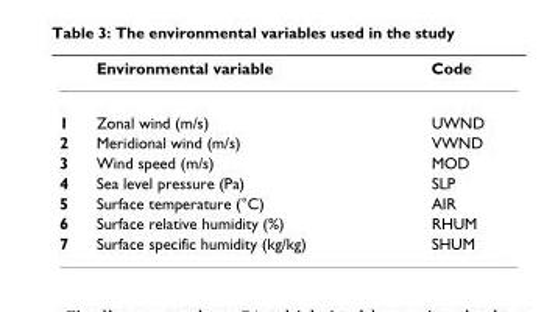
<table><thead><tr><td></td><td>Environmental variable</td><td>Code</td></tr></thead><tbody><tr><td>1</td><td>Zonal wind (m/s)</td><td>UWND</td></tr><tr><td>2</td><td>Meridional wind (m/s)</td><td>VWND</td></tr><tr><td>3</td><td>Wind speed (m/s)</td><td>MOD</td></tr><tr><td>4</td><td>Sea level pressure (Pa)</td><td>SLP</td></tr><tr><td>5</td><td>Surface temperature (°C)</td><td>AIR</td></tr><tr><td>6</td><td>Surface relative humidity (%)</td><td>RHUM</td></tr><tr><td>7</td><td>Surface specific humidity (kg/kg)</td><td>SHUM</td></tr></tbody></table>